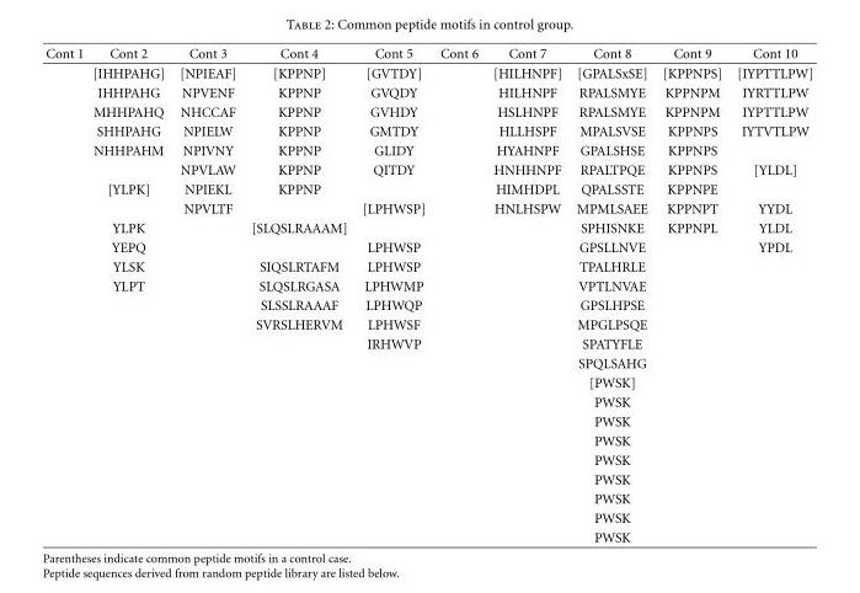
<table><thead><tr><td>Cont 1</td><td>Cont 2</td><td>Cont 3</td><td>Cont 4</td><td>Cont 5</td><td>Cont 6</td><td>Cont 7</td><td>Cont 8</td><td>Cont 9</td><td>Cont 10</td></tr></thead><tbody><tr><td></td><td>[IHHPAHG]</td><td>[NPIEAF]</td><td>[KPPNP]</td><td>[GVTDY]</td><td></td><td>[HILHNPF]</td><td>[GPALSxSE]</td><td>[KPPNPS]</td><td>[IYPTTLPW]</td></tr><tr><td></td><td>IHHPAHG</td><td>NPVENF</td><td>KPPNP</td><td>GVQDY</td><td></td><td>HILHNPF</td><td>RPALSMYE</td><td>KPPNPM</td><td>IYRTTLPW</td></tr><tr><td></td><td>MHHPAHQ</td><td>NHCCAF</td><td>KPPNP</td><td>GVHDY</td><td></td><td>HSLHNPF</td><td>RPALSMYE</td><td>KPPNPM</td><td>IYPTTLPW</td></tr><tr><td></td><td>SHHPAHG</td><td>NPIELW</td><td>KPPNP</td><td>GMTDY</td><td></td><td>HLLHSPF</td><td>MPALSVSE</td><td>KPPNPS</td><td>IYTVTLPW</td></tr><tr><td></td><td>NHHPAHM</td><td>NPIVNY</td><td>KPPNP</td><td>GLIDY</td><td></td><td>HYAHNPF</td><td>GPALSHSE</td><td>KPPNPS</td><td></td></tr><tr><td></td><td></td><td>NPVLAW</td><td>KPPNP</td><td>QITDY</td><td></td><td>HNHHNPF</td><td>RPALTPQE</td><td>KPPNPS</td><td>[YLDL]</td></tr><tr><td></td><td>[YLPK]</td><td>NPIEKL</td><td>KPPNP</td><td></td><td></td><td>HIMHDPL</td><td>QPALSSTE</td><td>KPPNPE</td><td></td></tr><tr><td></td><td></td><td>NPVLTF</td><td></td><td>[LPHWSP]</td><td></td><td>HNLHSPW</td><td>MPMLSAEE</td><td>KPPNPT</td><td>YYDL</td></tr><tr><td></td><td>YLPK</td><td></td><td>[SLQSLRAAAM]</td><td></td><td></td><td></td><td>SPHISNKE</td><td>KPPNPL</td><td>YLDL</td></tr><tr><td></td><td>YEPQ</td><td></td><td></td><td>LPHWSP</td><td></td><td></td><td>GPSLLNVE</td><td></td><td>YPDL</td></tr><tr><td></td><td>YLSK</td><td></td><td>SIQSLRTAFM</td><td>LPHWSP</td><td></td><td></td><td>TPALHRLE</td><td></td><td></td></tr><tr><td></td><td>YLPT</td><td></td><td>SLQSLRGASA</td><td>LPHWMP</td><td></td><td></td><td>VPTLNVAE</td><td></td><td></td></tr><tr><td></td><td></td><td></td><td>SLSSLRAAAF</td><td>LPHWQP</td><td></td><td></td><td>GPSLHPSE</td><td></td><td></td></tr><tr><td></td><td></td><td></td><td>SVRSLHERVM</td><td>LPHWSF</td><td></td><td></td><td>MPGLPSQE</td><td></td><td></td></tr><tr><td></td><td></td><td></td><td></td><td>IRHWVP</td><td></td><td></td><td>SPATYFLE</td><td></td><td></td></tr><tr><td></td><td></td><td></td><td></td><td></td><td></td><td></td><td>SPQLSAHG</td><td></td><td></td></tr><tr><td></td><td></td><td></td><td></td><td></td><td></td><td></td><td>[PWSK]</td><td></td><td></td></tr><tr><td></td><td></td><td></td><td></td><td></td><td></td><td></td><td>PWSK</td><td></td><td></td></tr><tr><td></td><td></td><td></td><td></td><td></td><td></td><td></td><td>PWSK</td><td></td><td></td></tr><tr><td></td><td></td><td></td><td></td><td></td><td></td><td></td><td>PWSK</td><td></td><td></td></tr><tr><td></td><td></td><td></td><td></td><td></td><td></td><td></td><td>PWSK</td><td></td><td></td></tr><tr><td></td><td></td><td></td><td></td><td></td><td></td><td></td><td>PWSK</td><td></td><td></td></tr><tr><td></td><td></td><td></td><td></td><td></td><td></td><td></td><td>PWSK</td><td></td><td></td></tr><tr><td></td><td></td><td></td><td></td><td></td><td></td><td></td><td>PWSK</td><td></td><td></td></tr><tr><td></td><td></td><td></td><td></td><td></td><td></td><td></td><td>PWSK</td><td></td><td></td></tr></tbody></table>